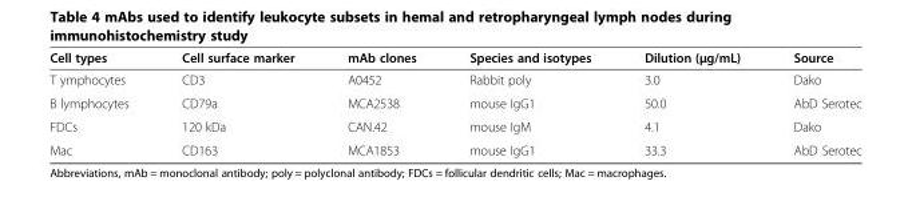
<table><thead><tr><td>Cell types</td><td>Cell surface marker</td><td>mAb clones</td><td>Species and isotypes</td><td>Dilution (μg/mL)</td><td>Source</td></tr></thead><tbody><tr><td>T ymphocytes</td><td>CD3</td><td>A0452</td><td>Rabbit poly</td><td>3.0</td><td>Dako</td></tr><tr><td>B lymphocytes</td><td>CD79a</td><td>MCA2538</td><td>mouse IgG1</td><td>50.0</td><td>AbD Serotec</td></tr><tr><td>FDCs</td><td>120 kDa</td><td>CAN.42</td><td>mouse IgM</td><td>4.1</td><td>Dako</td></tr><tr><td>Mac</td><td>CD163</td><td>MCA1853</td><td>mouse IgG1</td><td>33.3</td><td>AbD Serotec</td></tr></tbody></table>